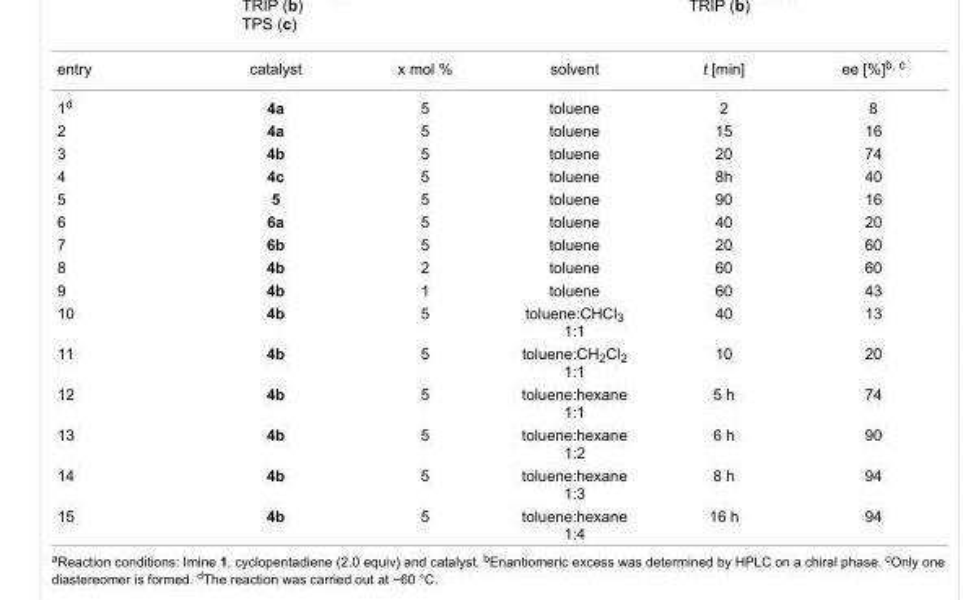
<table><tbody><tr><td>entry</td><td>catalyst</td><td>x mol %</td><td>solvent</td><td>t [min]</td><td>ee [%]<sup>b, c</sup></td></tr><tr><td>1<sup>d</sup></td><td>4a</td><td>5</td><td>toluene</td><td>2</td><td>8</td></tr><tr><td>2</td><td>4a</td><td>5</td><td>toluene</td><td>15</td><td>16</td></tr><tr><td>3</td><td>4b</td><td>5</td><td>toluene</td><td>20</td><td>74</td></tr><tr><td>4</td><td>4c</td><td>5</td><td>toluene</td><td>8h</td><td>40</td></tr><tr><td>5</td><td>5</td><td>5</td><td>toluene</td><td>90</td><td>16</td></tr><tr><td>6</td><td>6a</td><td>5</td><td>toluene</td><td>40</td><td>20</td></tr><tr><td>7</td><td>6b</td><td>5</td><td>toluene</td><td>20</td><td>60</td></tr><tr><td>8</td><td>4b</td><td>2</td><td>toluene</td><td>60</td><td>60</td></tr><tr><td>9</td><td>4b</td><td>1</td><td>toluene</td><td>60</td><td>43</td></tr><tr><td>10</td><td>4b</td><td>5</td><td>toluene:CHCl<sub>3</sub> 1:1</td><td>40</td><td>13</td></tr><tr><td>11</td><td>4b</td><td>5</td><td>toluene:CH<sub>2</sub>Cl<sub>2</sub> 1:1</td><td>10</td><td>20</td></tr><tr><td>12</td><td>4b</td><td>5</td><td>toluene:hexane 1:1</td><td>5 h</td><td>74</td></tr><tr><td>13</td><td>4b</td><td>5</td><td>toluene:hexane 1:2</td><td>6 h</td><td>90</td></tr><tr><td>14</td><td>4b</td><td>5</td><td>toluene:hexane 1:3</td><td>8 h</td><td>94</td></tr><tr><td>15</td><td>4b</td><td>5</td><td>toluene:hexane 1:4</td><td>16 h</td><td>94</td></tr></tbody></table>